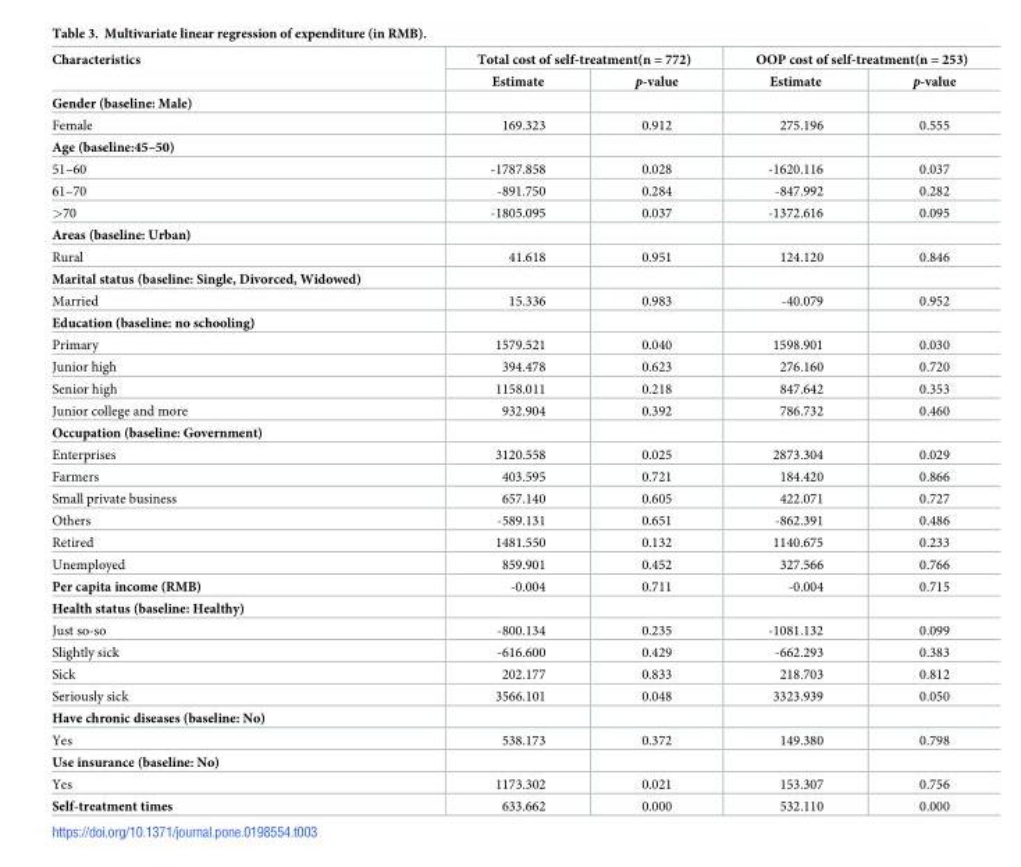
<table><thead><tr><td rowspan="2">Characteristics</td><td colspan="2">Total cost of self-treatment(n = 772)</td><td colspan="2">OOP cost of self-treatment(n = 253)</td></tr><tr><td>Estimate</td><td>p-value</td><td>Estimate</td><td>p-value</td></tr></thead><tbody><tr><td colspan="5">Gender (baseline: Male)</td></tr><tr><td>Female</td><td>169.323</td><td>0.912</td><td>275.196</td><td>0.555</td></tr><tr><td colspan="5">Age (baseline:45–50)</td></tr><tr><td>51–60</td><td>-1787.858</td><td>0.028</td><td>-1620.116</td><td>0.037</td></tr><tr><td>61–70</td><td>-891.750</td><td>0.284</td><td>-847.992</td><td>0.282</td></tr><tr><td>&gt;70</td><td>-1805.095</td><td>0.037</td><td>-1372.616</td><td>0.095</td></tr><tr><td colspan="5">Areas (baseline: Urban)</td></tr><tr><td>Rural</td><td>41.618</td><td>0.951</td><td>124.120</td><td>0.846</td></tr><tr><td colspan="5">Marital status (baseline: Single, Divorced, Widowed)</td></tr><tr><td>Married</td><td>15.336</td><td>0.983</td><td>-40.079</td><td>0.952</td></tr><tr><td colspan="5">Education (baseline: no schooling)</td></tr><tr><td>Primary</td><td>1579.521</td><td>0.040</td><td>1598.901</td><td>0.030</td></tr><tr><td>Junior high</td><td>394.478</td><td>0.623</td><td>276.160</td><td>0.720</td></tr><tr><td>Senior high</td><td>1158.011</td><td>0.218</td><td>847.642</td><td>0.353</td></tr><tr><td>Junior college and more</td><td>932.904</td><td>0.392</td><td>786.732</td><td>0.460</td></tr><tr><td colspan="5">Occupation (baseline: Government)</td></tr><tr><td>Enterprises</td><td>3120.558</td><td>0.025</td><td>2873.304</td><td>0.029</td></tr><tr><td>Farmers</td><td>403.595</td><td>0.721</td><td>184.420</td><td>0.866</td></tr><tr><td>Small private business</td><td>657.140</td><td>0.605</td><td>422.071</td><td>0.727</td></tr><tr><td>Others</td><td>-589.131</td><td>0.651</td><td>-862.391</td><td>0.486</td></tr><tr><td>Retired</td><td>1481.550</td><td>0.132</td><td>1140.675</td><td>0.233</td></tr><tr><td>Unemployed</td><td>859.901</td><td>0.452</td><td>327.566</td><td>0.766</td></tr><tr><td>Per capita income (RMB)</td><td>-0.004</td><td>0.711</td><td>-0.004</td><td>0.715</td></tr><tr><td colspan="5">Health status (baseline: Healthy)</td></tr><tr><td>Just so-so</td><td>-800.134</td><td>0.235</td><td>-1081.132</td><td>0.099</td></tr><tr><td>Slightly sick</td><td>-616.600</td><td>0.429</td><td>-662.293</td><td>0.383</td></tr><tr><td>Sick</td><td>202.177</td><td>0.833</td><td>218.703</td><td>0.812</td></tr><tr><td>Seriously sick</td><td>3566.101</td><td>0.048</td><td>3323.939</td><td>0.050</td></tr><tr><td colspan="5">Have chronic diseases (baseline: No)</td></tr><tr><td>Yes</td><td>538.173</td><td>0.372</td><td>149.380</td><td>0.798</td></tr><tr><td colspan="5">Use insurance (baseline: No)</td></tr><tr><td>Yes</td><td>1173.302</td><td>0.021</td><td>153.307</td><td>0.756</td></tr><tr><td>Self-treatment times</td><td>633.662</td><td>0.000</td><td>532.110</td><td>0.000</td></tr></tbody></table>